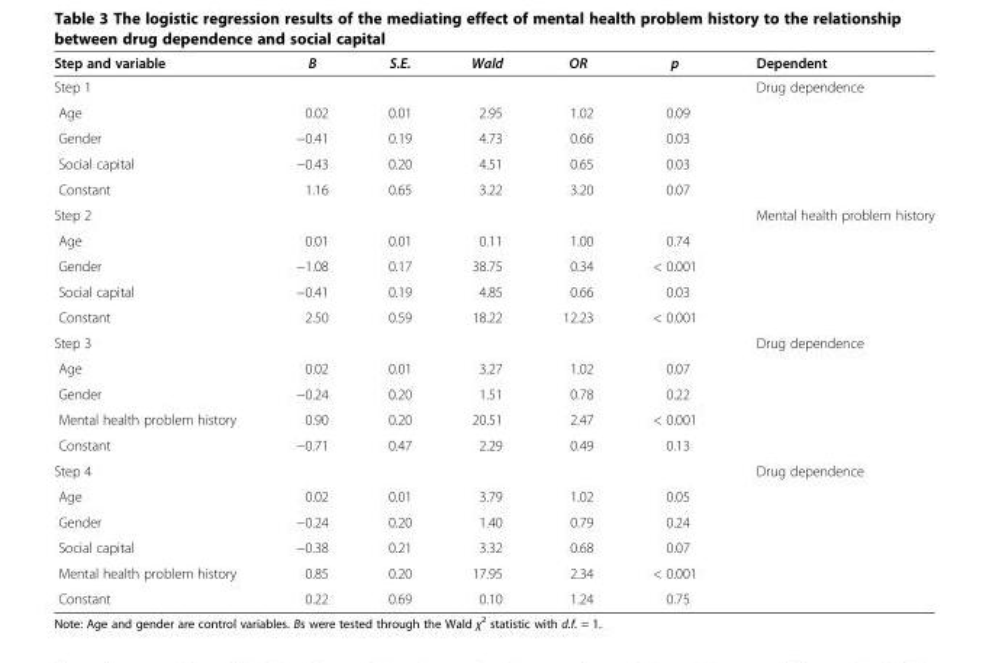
<table><thead><tr><td>Step and variable</td><td>B</td><td>S.E.</td><td>Wald</td><td>OR</td><td>p</td><td>Dependent</td></tr></thead><tbody><tr><td>Step 1</td><td></td><td></td><td></td><td></td><td></td><td>Drug dependence</td></tr><tr><td>Age</td><td>0.02</td><td>0.01</td><td>2.95</td><td>1.02</td><td>0.09</td><td></td></tr><tr><td>Gender</td><td>−0.41</td><td>0.19</td><td>4.73</td><td>0.66</td><td>0.03</td><td></td></tr><tr><td>Social capital</td><td>−0.43</td><td>0.20</td><td>4.51</td><td>0.65</td><td>0.03</td><td></td></tr><tr><td>Constant</td><td>1.16</td><td>0.65</td><td>3.22</td><td>3.20</td><td>0.07</td><td></td></tr><tr><td>Step 2</td><td></td><td></td><td></td><td></td><td></td><td>Mental health problem history</td></tr><tr><td>Age</td><td>0.01</td><td>0.01</td><td>0.11</td><td>1.00</td><td>0.74</td><td></td></tr><tr><td>Gender</td><td>−1.08</td><td>0.17</td><td>38.75</td><td>0.34</td><td>&lt; 0.001</td><td></td></tr><tr><td>Social capital</td><td>−0.41</td><td>0.19</td><td>4.85</td><td>0.66</td><td>0.03</td><td></td></tr><tr><td>Constant</td><td>2.50</td><td>0.59</td><td>18.22</td><td>12.23</td><td>&lt; 0.001</td><td></td></tr><tr><td>Step 3</td><td></td><td></td><td></td><td></td><td></td><td>Drug dependence</td></tr><tr><td>Age</td><td>0.02</td><td>0.01</td><td>3.27</td><td>1.02</td><td>0.07</td><td></td></tr><tr><td>Gender</td><td>−0.24</td><td>0.20</td><td>1.51</td><td>0.78</td><td>0.22</td><td></td></tr><tr><td>Mental health problem history</td><td>0.90</td><td>0.20</td><td>20.51</td><td>2.47</td><td>&lt; 0.001</td><td></td></tr><tr><td>Constant</td><td>−0.71</td><td>0.47</td><td>2.29</td><td>0.49</td><td>0.13</td><td></td></tr><tr><td>Step 4</td><td></td><td></td><td></td><td></td><td></td><td>Drug dependence</td></tr><tr><td>Age</td><td>0.02</td><td>0.01</td><td>3.79</td><td>1.02</td><td>0.05</td><td></td></tr><tr><td>Gender</td><td>−0.24</td><td>0.20</td><td>1.40</td><td>0.79</td><td>0.24</td><td></td></tr><tr><td>Social capital</td><td>−0.38</td><td>0.21</td><td>3.32</td><td>0.68</td><td>0.07</td><td></td></tr><tr><td>Mental health problem history</td><td>0.85</td><td>0.20</td><td>17.95</td><td>2.34</td><td>&lt; 0.001</td><td></td></tr><tr><td>Constant</td><td>0.22</td><td>0.69</td><td>0.10</td><td>1.24</td><td>0.75</td><td></td></tr></tbody></table>